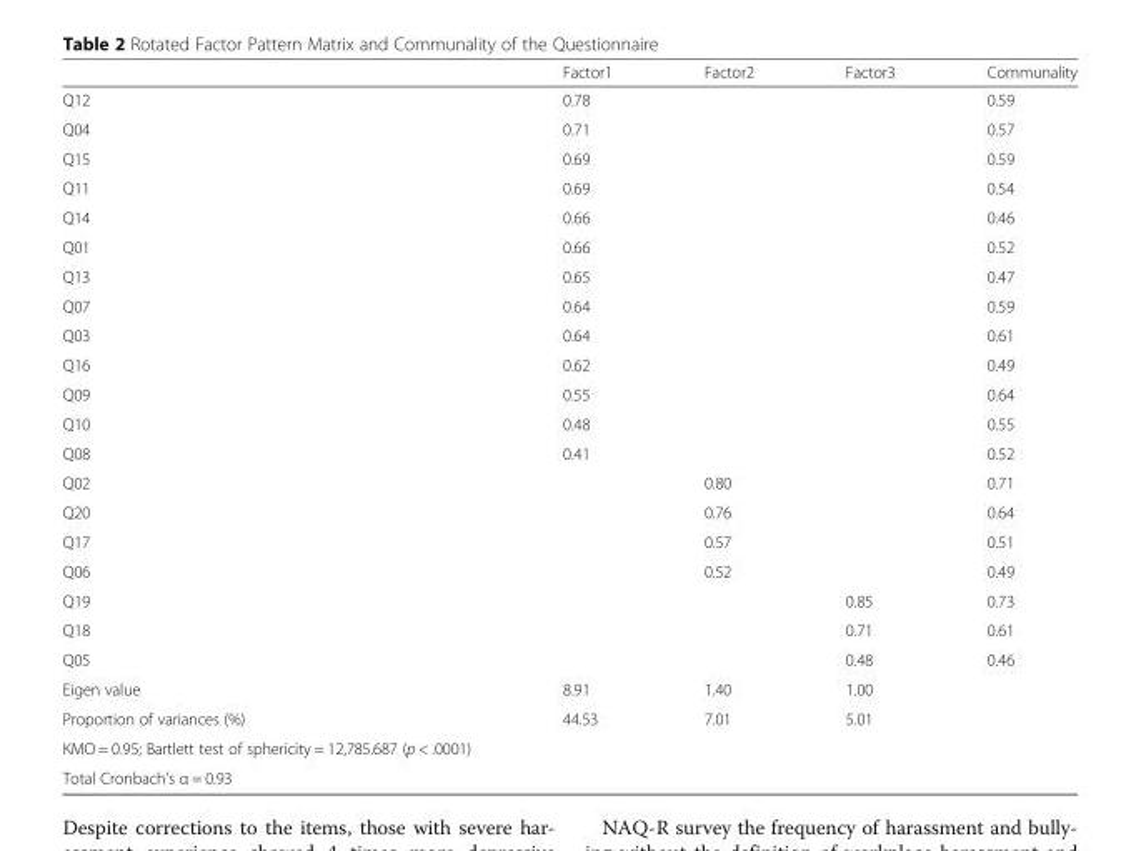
<table><thead><tr><td></td><td>Factor1</td><td>Factor2</td><td>Factor3</td><td>Communality</td></tr></thead><tbody><tr><td>Q12</td><td>0.78</td><td></td><td></td><td>0.59</td></tr><tr><td>Q04</td><td>0.71</td><td></td><td></td><td>0.57</td></tr><tr><td>Q15</td><td>0.69</td><td></td><td></td><td>0.59</td></tr><tr><td>Q11</td><td>0.69</td><td></td><td></td><td>0.54</td></tr><tr><td>Q14</td><td>0.66</td><td></td><td></td><td>0.46</td></tr><tr><td>Q01</td><td>0.66</td><td></td><td></td><td>0.52</td></tr><tr><td>Q13</td><td>0.65</td><td></td><td></td><td>0.47</td></tr><tr><td>Q07</td><td>0.64</td><td></td><td></td><td>0.59</td></tr><tr><td>Q03</td><td>0.64</td><td></td><td></td><td>0.61</td></tr><tr><td>Q16</td><td>0.62</td><td></td><td></td><td>0.49</td></tr><tr><td>Q09</td><td>0.55</td><td></td><td></td><td>0.64</td></tr><tr><td>Q10</td><td>0.48</td><td></td><td></td><td>0.55</td></tr><tr><td>Q08</td><td>0.41</td><td></td><td></td><td>0.52</td></tr><tr><td>Q02</td><td></td><td>0.80</td><td></td><td>0.71</td></tr><tr><td>Q20</td><td></td><td>0.76</td><td></td><td>0.64</td></tr><tr><td>Q17</td><td></td><td>0.57</td><td></td><td>0.51</td></tr><tr><td>Q06</td><td></td><td>0.52</td><td></td><td>0.49</td></tr><tr><td>Q19</td><td></td><td></td><td>0.85</td><td>0.73</td></tr><tr><td>Q18</td><td></td><td></td><td>0.71</td><td>0.61</td></tr><tr><td>Q05</td><td></td><td></td><td>0.48</td><td>0.46</td></tr><tr><td>Eigen value</td><td>8.91</td><td>1.40</td><td>1.00</td><td></td></tr><tr><td>Proportion of variances (%)</td><td>44.53</td><td>7.01</td><td>5.01</td><td></td></tr><tr><td colspan="5">KMO = 0.95; Bartlett test of sphericity = 12,785.687 (p &lt; .0001)</td></tr><tr><td>Total Cronbach’s α = 0.93</td><td></td><td></td><td></td><td></td></tr></tbody></table>